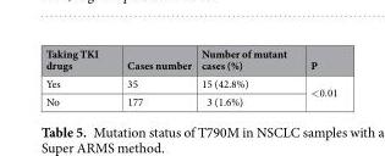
<table><thead><tr><td>Taking TKI drugs</td><td>Cases number</td><td>Number of mutant cases (%)</td><td>P</td></tr></thead><tbody><tr><td>Yes</td><td>35</td><td>15 (42.8%)</td><td rowspan="2">&lt;0.01</td></tr><tr><td>No</td><td>177</td><td>3 (1.6%)</td></tr></tbody></table>